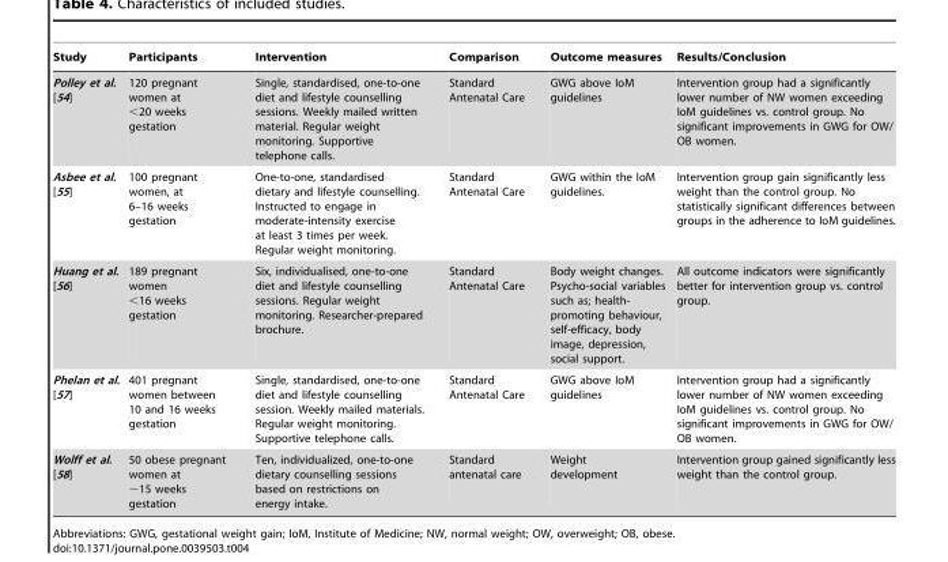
<table><thead><tr><td>Study</td><td>Participants</td><td>Intervention</td><td>Comparison</td><td>Outcome measures</td><td>Results/Conclusion</td></tr></thead><tbody><tr><td>Polley et al. [54]</td><td>120 pregnant women at &lt;20 weeks gestation</td><td>Single, standardised, one-to-one diet and lifestyle counselling sessions. Weekly mailed written material. Regular weight monitoring. Supportive telephone calls.</td><td>Standard Antenatal Care</td><td>GWG above IoM guidelines</td><td>Intervention group had a significantly lower number of NW women exceeding IoM guidelines vs. control group. No significant improvements in GWG for OW/ OB women.</td></tr><tr><td>Asbee et al. [55]</td><td>100 pregnant women, at 6–16 weeks gestation</td><td>One-to-one, standardised dietary and lifestyle counselling. Instructed to engage in moderate-intensity exercise at least 3 times per week. Regular weight monitoring.</td><td>Standard Antenatal Care</td><td>GWG within the IoM guidelines.</td><td>Intervention group gain significantly less weight than the control group. No statistically significant differences between groups in the adherence to IoM guidelines.</td></tr><tr><td>Huang et al. [56]</td><td>189 pregnant women &lt;16 weeks gestation</td><td>Six, individualised, one-to-one diet and lifestyle counselling sessions. Regular weight monitoring. Researcher-prepared brochure.</td><td>Standard Antenatal Care</td><td>Body weight changes. Psycho-social variables such as; health- promoting behaviour, self-efficacy, body image, depression, social support.</td><td>All outcome indicators were significantly better for intervention group vs. control group.</td></tr><tr><td>Phelan et al. [57]</td><td>401 pregnant women between 10 and 16 weeks gestation</td><td>Single, standardised, one-to-one diet and lifestyle counselling session. Weekly mailed materials. Regular weight monitoring. Supportive telephone calls.</td><td>Standard Antenatal Care</td><td>GWG above IoM guidelines</td><td>Intervention group had a significantly lower number of NW women exceeding IoM guidelines vs. control group. No significant improvements in GWG for OW/ OB women.</td></tr><tr><td>Wolff et al. [58]</td><td>50 obese pregnant women at ∼15 weeks gestation</td><td>Ten, individualized, one-to-one dietary counselling sessions based on restrictions on energy intake.</td><td>Standard antenatal care</td><td>Weight development</td><td>Intervention group gained significantly less weight than the control group.</td></tr></tbody></table>